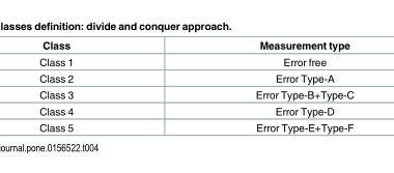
<table><thead><tr><td>Class</td><td>Measurement type</td></tr></thead><tbody><tr><td>Class 1</td><td>Error free</td></tr><tr><td>Class 2</td><td>Error Type-A</td></tr><tr><td>Class 3</td><td>Error Type-B+Type-C</td></tr><tr><td>Class 4</td><td>Error Type-D</td></tr><tr><td>Class 5</td><td>Error Type-E+Type-F</td></tr></tbody></table>